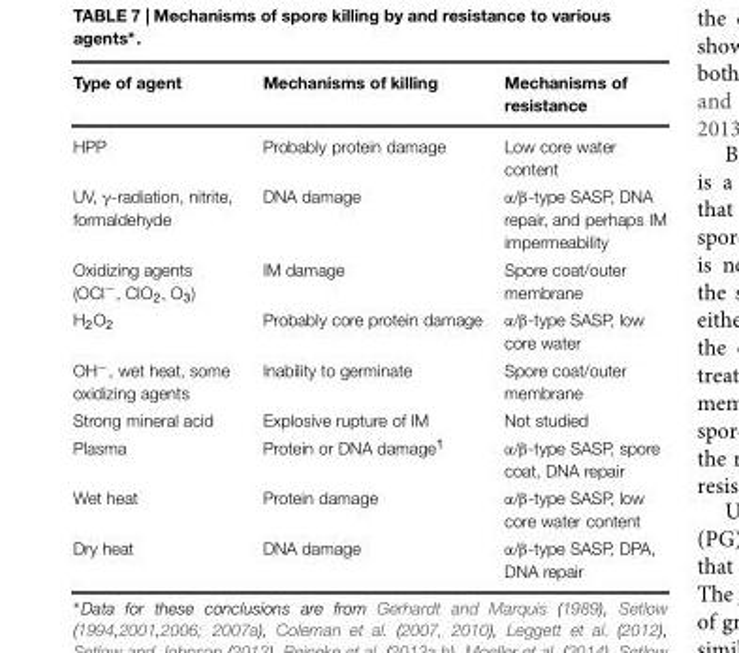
<table><thead><tr><td>Type of agent</td><td>Mechanisms of killing</td><td>Mechanisms of resistance</td></tr></thead><tbody><tr><td>HPP</td><td>Probably protein damage</td><td>Low core water content</td></tr><tr><td>UV, γ-radiation, nitrite, formaldehyde</td><td>DNA damage</td><td>α/β-type SASP, DNA repair, and perhaps IM impermeability</td></tr><tr><td>Oxidizing agents (OCl<sup>−</sup>, ClO<sub>2</sub>, O<sub>3</sub>)</td><td>IM damage</td><td>Spore coat/outer membrane</td></tr><tr><td>H<sub>2</sub>O<sub>2</sub></td><td>Probably core protein damage</td><td>α/β-type SASP, low core water</td></tr><tr><td>OH<sup>−</sup>, wet heat, some oxidizing agents</td><td>Inability to germinate</td><td>Spore coat/outer membrane</td></tr><tr><td>Strong mineral acid</td><td>Explosive rupture of IM</td><td>Not studied</td></tr><tr><td>Plasma</td><td>Protein or DNA damage<sup>1</sup></td><td>α/β-type SASP, spore coat, DNA repair</td></tr><tr><td>Wet heat</td><td>Protein damage</td><td>α/β-type SASP, low core water content</td></tr><tr><td>Dry heat</td><td>DNA damage</td><td>α/β-type SASP, DPA, DNA repair</td></tr></tbody></table>